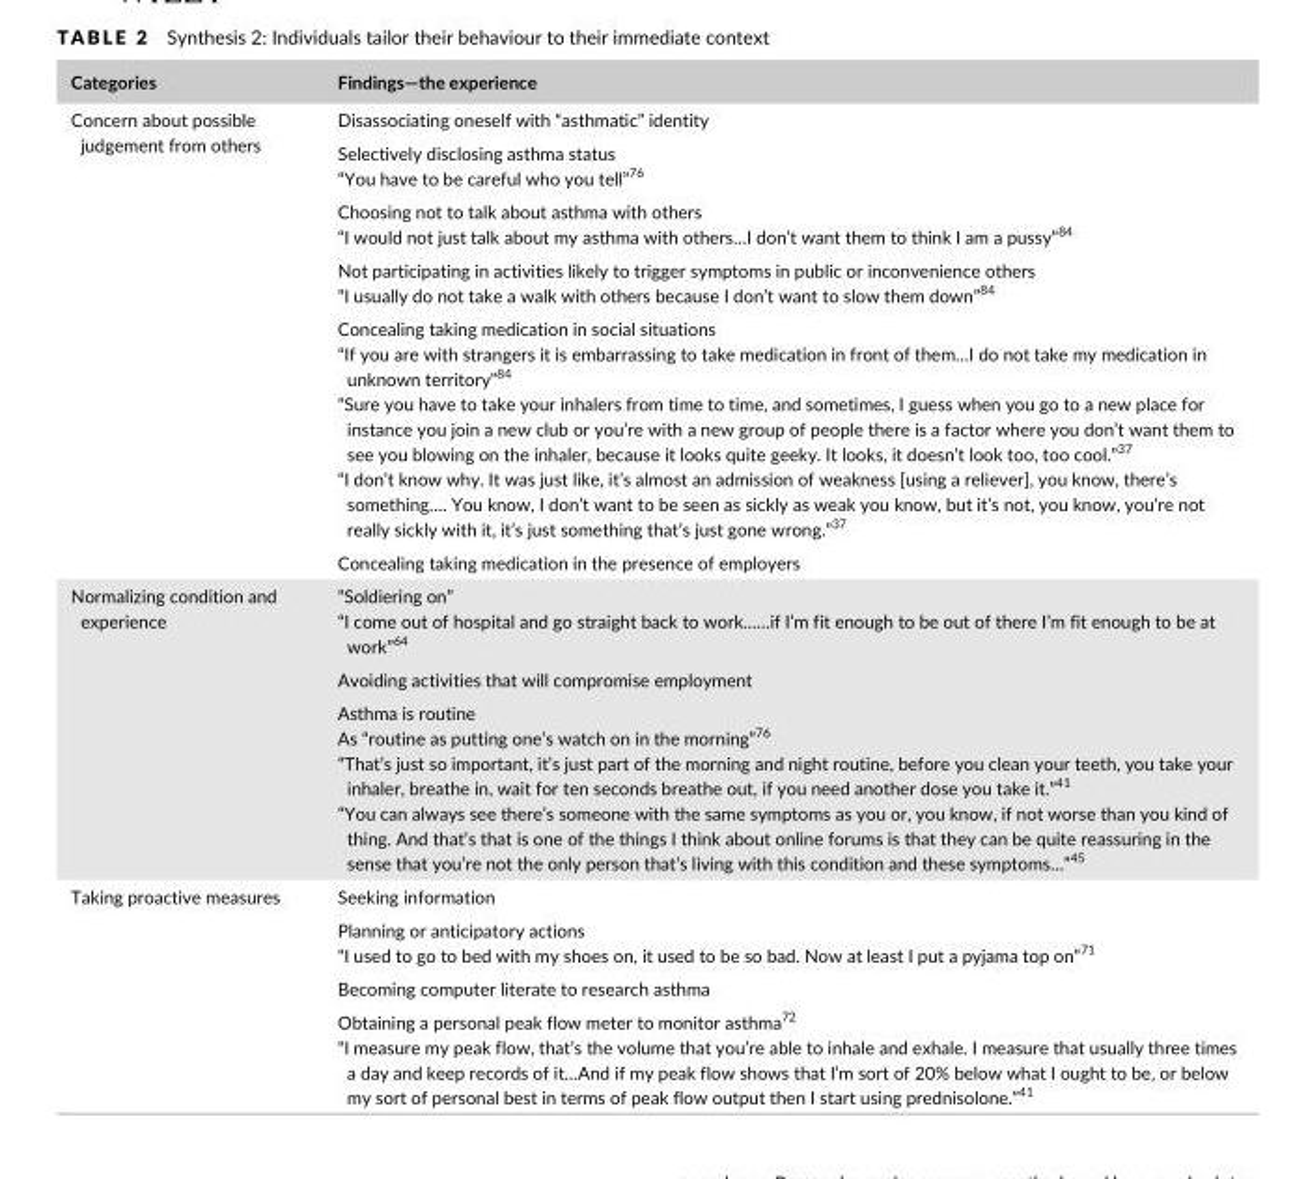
<table><thead><tr><td>Categories</td><td>Findings—the experience</td></tr></thead><tbody><tr><td rowspan="6">Concern about possible judgement from others</td><td>Disassociating oneself with “asthmatic” identity</td></tr><tr><td>Selectively disclosing asthma status “You have to be careful who you tell”<sup>76</sup></td></tr><tr><td>Choosing not to talk about asthma with others “I would not just talk about my asthma with others…I don’t want them to think I am a pussy”<sup>84</sup></td></tr><tr><td>Not participating in activities likely to trigger symptoms in public or inconvenience others “I usually do not take a walk with others because I don’t want to slow them down”<sup>84</sup></td></tr><tr><td>Concealing taking medication in social situations “If you are with strangers it is embarrassing to take medication in front of them…I do not take my medication in unknown territory”<sup>84</sup> “Sure you have to take your inhalers from time to time, and sometimes, I guess when you go to a new place for instance you join a new club or you’re with a new group of people there is a factor where you don’t want them to see you blowing on the inhaler, because it looks quite geeky. It looks, it doesn’t look too, too cool.”<sup>37</sup> “I don’t know why. It was just like, it’s almost an admission of weakness [using a reliever], you know, there’s something…. You know, I don’t want to be seen as sickly as weak you know, but it’s not, you know, you’re not really sickly with it, it’s just something that’s just gone wrong.”<sup>37</sup></td></tr><tr><td>Concealing taking medication in the presence of employers</td></tr><tr><td rowspan="3">Normalizing condition and experience</td><td>“Soldiering on” “I come out of hospital and go straight back to work……if I’m fit enough to be out of there I’m fit enough to be at work”<sup>64</sup></td></tr><tr><td>Avoiding activities that will compromise employment</td></tr><tr><td>Asthma is routine As “routine as putting one’s watch on in the morning”<sup>76</sup> “That’s just so important, it’s just part of the morning and night routine, before you clean your teeth, you take your inhaler, breathe in, wait for ten seconds breathe out, if you need another dose you take it.”<sup>41</sup> “You can always see there’s someone with the same symptoms as you or, you know, if not worse than you kind of thing. And that’s that is one of the things I think about online forums is that they can be quite reassuring in the sense that you’re not the only person that’s living with this condition and these symptoms…”<sup>45</sup></td></tr><tr><td rowspan="4">Taking proactive measures</td><td>Seeking information</td></tr><tr><td>Planning or anticipatory actions “I used to go to bed with my shoes on, it used to be so bad. Now at least I put a pyjama top on”<sup>71</sup></td></tr><tr><td>Becoming computer literate to research asthma</td></tr><tr><td>Obtaining a personal peak flow meter to monitor asthma<sup>72</sup> “I measure my peak flow, that’s the volume that you’re able to inhale and exhale. I measure that usually three times a day and keep records of it…And if my peak flow shows that I’m sort of 20% below what I ought to be, or below my sort of personal best in terms of peak flow output then I start using prednisolone.”<sup>41</sup></td></tr></tbody></table>